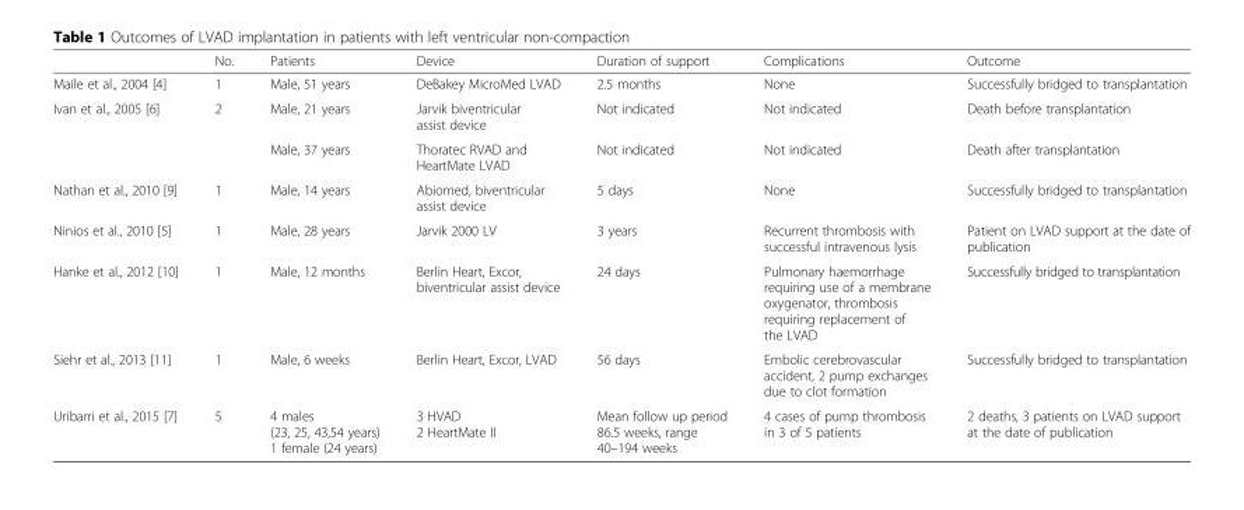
<table><thead><tr><td></td><td>No.</td><td>Patients</td><td>Device</td><td>Duration of support</td><td>Complications</td><td>Outcome</td></tr></thead><tbody><tr><td>Maile et al., 2004 [4]</td><td>1</td><td>Male, 51 years</td><td>DeBakey MicroMed LVAD</td><td>2.5 months</td><td>None</td><td>Successfully bridged to transplantation</td></tr><tr><td rowspan="2">Ivan et al., 2005 [6]</td><td>2</td><td>Male, 21 years</td><td>Jarvik biventricular assist device</td><td>Not indicated</td><td>Not indicated</td><td>Death before transplantation</td></tr><tr><td></td><td>Male, 37 years</td><td>Thoratec RVAD and HeartMate LVAD</td><td>Not indicated</td><td>Not indicated</td><td>Death after transplantation</td></tr><tr><td>Nathan et al., 2010 [9]</td><td>1</td><td>Male, 14 years</td><td>Abiomed, biventricular assist device</td><td>5 days</td><td>None</td><td>Successfully bridged to transplantation</td></tr><tr><td>Ninios et al., 2010 [5]</td><td>1</td><td>Male, 28 years</td><td>Jarvik 2000 LV</td><td>3 years</td><td>Recurrent thrombosis with successful intravenous lysis</td><td>Patient on LVAD support at the date of publication</td></tr><tr><td>Hanke et al., 2012 [10]</td><td>1</td><td>Male, 12 months</td><td>Berlin Heart, Excor, biventricular assist device</td><td>24 days</td><td>Pulmonary haemorrhage requiring use of a membrane oxygenator, thrombosis requiring replacement of the LVAD</td><td>Successfully bridged to transplantation</td></tr><tr><td>Siehr et al., 2013 [11]</td><td>1</td><td>Male, 6 weeks</td><td>Berlin Heart, Excor, LVAD</td><td>56 days</td><td>Embolic cerebrovascular accident, 2 pump exchanges due to clot formation</td><td>Successfully bridged to transplantation</td></tr><tr><td>Uribarri et al., 2015 [7]</td><td>5</td><td>4 males (23, 25, 43,54 years) 1 female (24 years)</td><td>3 HVAD 2 HeartMate II</td><td>Mean follow up period 86.5 weeks, range 40–194 weeks</td><td>4 cases of pump thrombosis in 3 of 5 patients</td><td>2 deaths, 3 patients on LVAD support at the date of publication</td></tr></tbody></table>